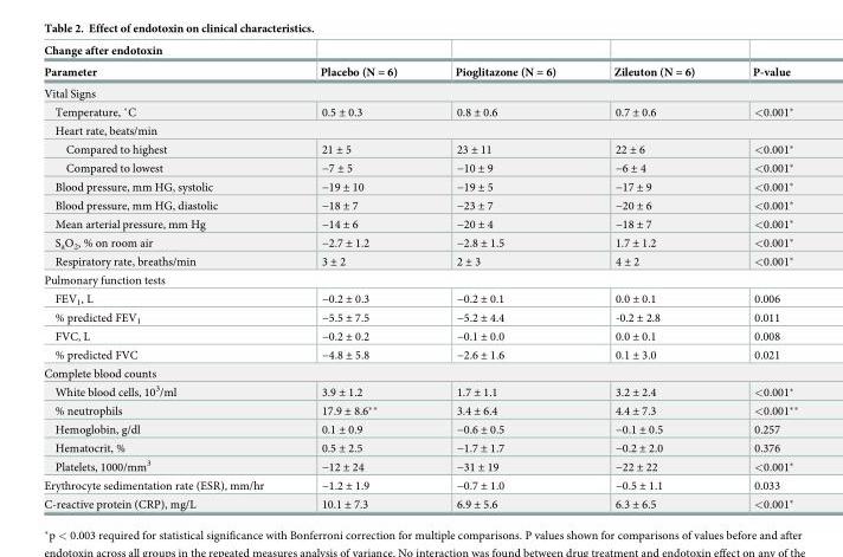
<table><thead><tr><td rowspan="2">Change after endotoxin Parameter</td><td rowspan="2">Placebo (N = 6)</td><td rowspan="2">Pioglitazone (N = 6)</td><td rowspan="2">Zileuton (N = 6)</td><td rowspan="2">P-value</td></tr><tr></tr></thead><tbody><tr><td colspan="5">Vital Signs</td></tr><tr><td>Temperature, ˚C</td><td>0.5 ± 0.3</td><td>0.8 ± 0.6</td><td>0.7 ± 0.6</td><td>&lt;0.001*</td></tr><tr><td colspan="5">Heart rate, beats/min</td></tr><tr><td>Compared to highest</td><td>21 ± 5</td><td>23 ± 11</td><td>22 ± 6</td><td>&lt;0.001*</td></tr><tr><td>Compared to lowest</td><td>−7 ± 5</td><td>−10 ± 9</td><td>−6 ± 4</td><td>&lt;0.001*</td></tr><tr><td>Blood pressure, mm HG, systolic</td><td>−19 ± 10</td><td>−19 ± 5</td><td>−17 ± 9</td><td>&lt;0.001*</td></tr><tr><td>Blood pressure, mm HG, diastolic</td><td>−18 ± 7</td><td>−23 ± 7</td><td>−20 ± 6</td><td>&lt;0.001*</td></tr><tr><td>Mean arterial pressure, mm Hg</td><td>−14 ± 6</td><td>−20 ± 4</td><td>−18 ± 7</td><td>&lt;0.001*</td></tr><tr><td>S<sub>a</sub>O<sub>2</sub>, % on room air</td><td>−2.7 ± 1.2</td><td>−2.8 ± 1.5</td><td>1.7 ± 1.2</td><td>&lt;0.001*</td></tr><tr><td>Respiratory rate, breaths/min</td><td>3 ± 2</td><td>2 ± 3</td><td>4 ± 2</td><td>&lt;0.001*</td></tr><tr><td colspan="5">Pulmonary function tests</td></tr><tr><td>FEV<sub>1</sub>, L</td><td>−0.2 ± 0.3</td><td>−0.2 ± 0.1</td><td>0.0 ± 0.1</td><td>0.006</td></tr><tr><td>% predicted FEV<sub>1</sub></td><td>−5.5 ± 7.5</td><td>−5.2 ± 4.4</td><td>-0.2 ± 2.8</td><td>0.011</td></tr><tr><td>FVC, L</td><td>−0.2 ± 0.2</td><td>−0.1 ± 0.0</td><td>0.0 ± 0.1</td><td>0.008</td></tr><tr><td>% predicted FVC</td><td>−4.8 ± 5.8</td><td>−2.6 ± 1.6</td><td>0.1 ± 3.0</td><td>0.021</td></tr><tr><td colspan="5">Complete blood counts</td></tr><tr><td>White blood cells, 10<sup>3</sup>/ml</td><td>3.9 ± 1.2</td><td>1.7 ± 1.1</td><td>3.2 ± 2.4</td><td>&lt;0.001*</td></tr><tr><td>% neutrophils</td><td>17.9 ± 8.6**</td><td>3.4 ± 6.4</td><td>4.4 ± 7.3</td><td>&lt;0.001**</td></tr><tr><td>Hemoglobin, g/dl</td><td>0.1 ± 0.9</td><td>−0.6 ± 0.5</td><td>−0.1 ± 0.5</td><td>0.257</td></tr><tr><td>Hematocrit, %</td><td>0.5 ± 2.5</td><td>−1.7 ± 1.7</td><td>−0.2 ± 2.0</td><td>0.376</td></tr><tr><td>Platelets, 1000/mm<sup>3</sup></td><td>−12 ± 24</td><td>−31 ± 19</td><td>−22 ± 22</td><td>&lt;0.001*</td></tr><tr><td>Erythrocyte sedimentation rate (ESR), mm/hr</td><td>−1.2 ± 1.9</td><td>−0.7 ± 1.0</td><td>−0.5 ± 1.1</td><td>0.033</td></tr><tr><td>C-reactive protein (CRP), mg/L</td><td>10.1 ± 7.3</td><td>6.9 ± 5.6</td><td>6.3 ± 6.5</td><td>&lt;0.001*</td></tr></tbody></table>